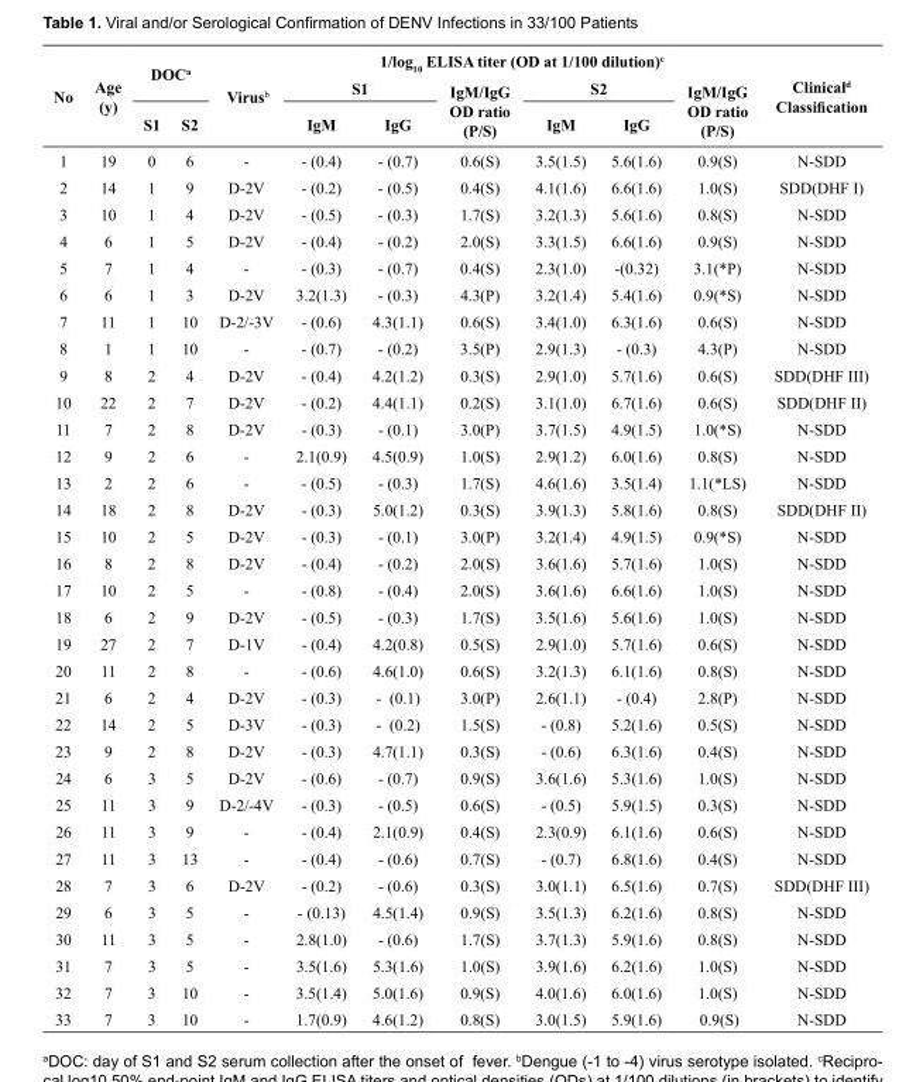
<table><thead><tr><td rowspan="3">No</td><td rowspan="3">Age (y)</td><td rowspan="2" colspan="2">DOC<sup>a</sup></td><td rowspan="3">Virus<sup>b</sup></td><td colspan="6">1/log<sub>10</sub> ELISA titer (OD at 1/100 dilution)<sup>c</sup></td><td rowspan="3">Clinical<sup>d</sup> Classification</td></tr><tr><td colspan="2">S1</td><td rowspan="2">IgM/IgG OD ratio (P/S)</td><td colspan="2">S2</td><td rowspan="2">IgM/IgG OD ratio (P/S)</td></tr><tr><td>S1</td><td>S2</td><td>IgM</td><td>IgG</td><td>IgM</td><td>IgG</td></tr></thead><tbody><tr><td>1</td><td>19</td><td>0</td><td>6</td><td>-</td><td>- (0.4)</td><td>- (0.7)</td><td>0.6(S)</td><td>3.5(1.5)</td><td>5.6(1.6)</td><td>0.9(S)</td><td>N-SDD</td></tr><tr><td>2</td><td>14</td><td>1</td><td>9</td><td>D-2V</td><td>- (0.2)</td><td>- (0.5)</td><td>0.4(S)</td><td>4.1(1.6)</td><td>6.6(1.6)</td><td>1.0(S)</td><td>SDD(DHF I)</td></tr><tr><td>3</td><td>10</td><td>1</td><td>4</td><td>D-2V</td><td>- (0.5)</td><td>- (0.3)</td><td>1.7(S)</td><td>3.2(1.3)</td><td>5.6(1.6)</td><td>0.8(S)</td><td>N-SDD</td></tr><tr><td>4</td><td>6</td><td>1</td><td>5</td><td>D-2V</td><td>- (0.4)</td><td>- (0.2)</td><td>2.0(S)</td><td>3.3(1.5)</td><td>6.6(1.6)</td><td>0.9(S)</td><td>N-SDD</td></tr><tr><td>5</td><td>7</td><td>1</td><td>4</td><td>-</td><td>- (0.3)</td><td>- (0.7)</td><td>0.4(S)</td><td>2.3(1.0)</td><td>-(0.32)</td><td>3.1(*P)</td><td>N-SDD</td></tr><tr><td>6</td><td>6</td><td>1</td><td>3</td><td>D-2V</td><td>3.2(1.3)</td><td>- (0.3)</td><td>4.3(P)</td><td>3.2(1.4)</td><td>5.4(1.6)</td><td>0.9(*S)</td><td>N-SDD</td></tr><tr><td>7</td><td>11</td><td>1</td><td>10</td><td>D-2/-3V</td><td>- (0.6)</td><td>4.3(1.1)</td><td>0.6(S)</td><td>3.4(1.0)</td><td>6.3(1.6)</td><td>0.6(S)</td><td>N-SDD</td></tr><tr><td>8</td><td>1</td><td>1</td><td>10</td><td>-</td><td>- (0.7)</td><td>- (0.2)</td><td>3.5(P)</td><td>2.9(1.3)</td><td>- (0.3)</td><td>4.3(P)</td><td>N-SDD</td></tr><tr><td>9</td><td>8</td><td>2</td><td>4</td><td>D-2V</td><td>- (0.4)</td><td>4.2(1.2)</td><td>0.3(S)</td><td>2.9(1.0)</td><td>5.7(1.6)</td><td>0.6(S)</td><td>SDD(DHF III)</td></tr><tr><td>10</td><td>22</td><td>2</td><td>7</td><td>D-2V</td><td>- (0.2)</td><td>4.4(1.1)</td><td>0.2(S)</td><td>3.1(1.0)</td><td>6.7(1.6)</td><td>0.6(S)</td><td>SDD(DHF II)</td></tr><tr><td>11</td><td>7</td><td>2</td><td>8</td><td>D-2V</td><td>- (0.3)</td><td>- (0.1)</td><td>3.0(P)</td><td>3.7(1.5)</td><td>4.9(1.5)</td><td>1.0(*S)</td><td>N-SDD</td></tr><tr><td>12</td><td>9</td><td>2</td><td>6</td><td>-</td><td>2.1(0.9)</td><td>4.5(0.9)</td><td>1.0(S)</td><td>2.9(1.2)</td><td>6.0(1.6)</td><td>0.8(S)</td><td>N-SDD</td></tr><tr><td>13</td><td>2</td><td>2</td><td>6</td><td>-</td><td>- (0.5)</td><td>- (0.3)</td><td>1.7(S)</td><td>4.6(1.6)</td><td>3.5(1.4)</td><td>1.1(*LS)</td><td>N-SDD</td></tr><tr><td>14</td><td>18</td><td>2</td><td>8</td><td>D-2V</td><td>- (0.3)</td><td>5.0(1.2)</td><td>0.3(S)</td><td>3.9(1.3)</td><td>5.8(1.6)</td><td>0.8(S)</td><td>SDD(DHF II)</td></tr><tr><td>15</td><td>10</td><td>2</td><td>5</td><td>D-2V</td><td>- (0.3)</td><td>- (0.1)</td><td>3.0(P)</td><td>3.2(1.4)</td><td>4.9(1.5)</td><td>0.9(*S)</td><td>N-SDD</td></tr><tr><td>16</td><td>8</td><td>2</td><td>8</td><td>D-2V</td><td>- (0.4)</td><td>- (0.2)</td><td>2.0(S)</td><td>3.6(1.6)</td><td>5.7(1.6)</td><td>1.0(S)</td><td>N-SDD</td></tr><tr><td>17</td><td>10</td><td>2</td><td>5</td><td>-</td><td>- (0.8)</td><td>- (0.4)</td><td>2.0(S)</td><td>3.6(1.6)</td><td>6.6(1.6)</td><td>1.0(S)</td><td>N-SDD</td></tr><tr><td>18</td><td>6</td><td>2</td><td>9</td><td>D-2V</td><td>- (0.5)</td><td>- (0.3)</td><td>1.7(S)</td><td>3.5(1.6)</td><td>5.6(1.6)</td><td>1.0(S)</td><td>N-SDD</td></tr><tr><td>19</td><td>27</td><td>2</td><td>7</td><td>D-1V</td><td>- (0.4)</td><td>4.2(0.8)</td><td>0.5(S)</td><td>2.9(1.0)</td><td>5.7(1.6)</td><td>0.6(S)</td><td>N-SDD</td></tr><tr><td>20</td><td>11</td><td>2</td><td>8</td><td>-</td><td>- (0.6)</td><td>4.6(1.0)</td><td>0.6(S)</td><td>3.2(1.3)</td><td>6.1(1.6)</td><td>0.8(S)</td><td>N-SDD</td></tr><tr><td>21</td><td>6</td><td>2</td><td>4</td><td>D-2V</td><td>- (0.3)</td><td>- (0.1)</td><td>3.0(P)</td><td>2.6(1.1)</td><td>- (0.4)</td><td>2.8(P)</td><td>N-SDD</td></tr><tr><td>22</td><td>14</td><td>2</td><td>5</td><td>D-3V</td><td>- (0.3)</td><td>- (0.2)</td><td>1.5(S)</td><td>- (0.8)</td><td>5.2(1.6)</td><td>0.5(S)</td><td>N-SDD</td></tr><tr><td>23</td><td>9</td><td>2</td><td>8</td><td>D-2V</td><td>- (0.3)</td><td>4.7(1.1)</td><td>0.3(S)</td><td>- (0.6)</td><td>6.3(1.6)</td><td>0.4(S)</td><td>N-SDD</td></tr><tr><td>24</td><td>6</td><td>3</td><td>5</td><td>D-2V</td><td>- (0.6)</td><td>- (0.7)</td><td>0.9(S)</td><td>3.6(1.6)</td><td>5.3(1.6)</td><td>1.0(S)</td><td>N-SDD</td></tr><tr><td>25</td><td>11</td><td>3</td><td>9</td><td>D-2/-4V</td><td>- (0.3)</td><td>- (0.5)</td><td>0.6(S)</td><td>- (0.5)</td><td>5.9(1.5)</td><td>0.3(S)</td><td>N-SDD</td></tr><tr><td>26</td><td>11</td><td>3</td><td>9</td><td>-</td><td>- (0.4)</td><td>2.1(0.9)</td><td>0.4(S)</td><td>2.3(0.9)</td><td>6.1(1.6)</td><td>0.6(S)</td><td>N-SDD</td></tr><tr><td>27</td><td>11</td><td>3</td><td>13</td><td>-</td><td>- (0.4)</td><td>- (0.6)</td><td>0.7(S)</td><td>- (0.7)</td><td>6.8(1.6)</td><td>0.4(S)</td><td>N-SDD</td></tr><tr><td>28</td><td>7</td><td>3</td><td>6</td><td>D-2V</td><td>- (0.2)</td><td>- (0.6)</td><td>0.3(S)</td><td>3.0(1.1)</td><td>6.5(1.6)</td><td>0.7(S)</td><td>SDD(DHF III)</td></tr><tr><td>29</td><td>6</td><td>3</td><td>5</td><td>-</td><td>- (0.13)</td><td>4.5(1.4)</td><td>0.9(S)</td><td>3.5(1.3)</td><td>6.2(1.6)</td><td>0.8(S)</td><td>N-SDD</td></tr><tr><td>30</td><td>11</td><td>3</td><td>5</td><td>-</td><td>2.8(1.0)</td><td>- (0.6)</td><td>1.7(S)</td><td>3.7(1.3)</td><td>5.9(1.6)</td><td>0.8(S)</td><td>N-SDD</td></tr><tr><td>31</td><td>7</td><td>3</td><td>5</td><td>-</td><td>3.5(1.6)</td><td>5.3(1.6)</td><td>1.0(S)</td><td>3.9(1.6)</td><td>6.2(1.6)</td><td>1.0(S)</td><td>N-SDD</td></tr><tr><td>32</td><td>7</td><td>3</td><td>10</td><td>-</td><td>3.5(1.4)</td><td>5.0(1.6)</td><td>0.9(S)</td><td>4.0(1.6)</td><td>6.0(1.6)</td><td>1.0(S)</td><td>N-SDD</td></tr><tr><td>33</td><td>7</td><td>3</td><td>10</td><td>-</td><td>1.7(0.9)</td><td>4.6(1.2)</td><td>0.8(S)</td><td>3.0(1.5)</td><td>5.9(1.6)</td><td>0.9(S)</td><td>N-SDD</td></tr></tbody></table>